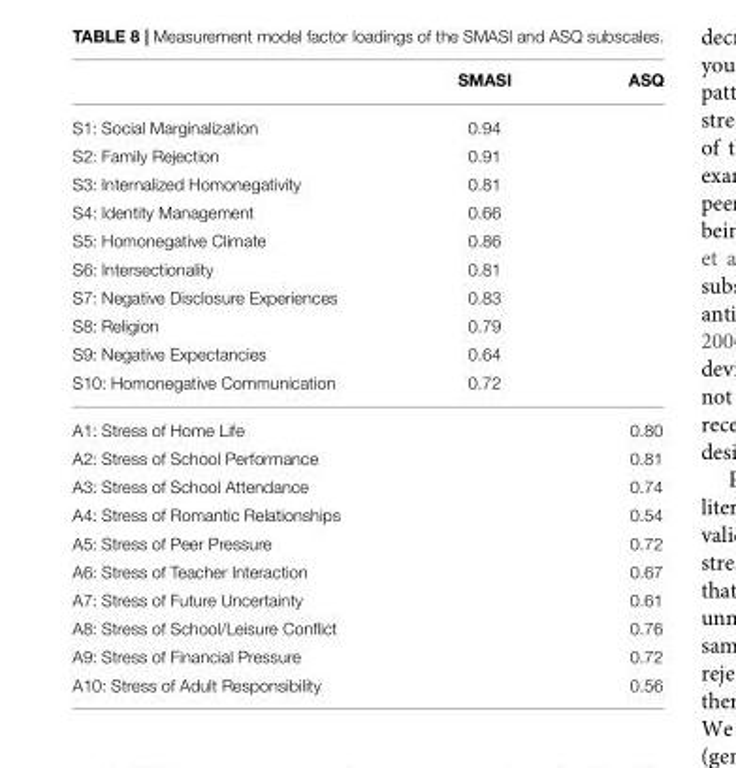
<table><thead><tr><td></td><td>SMASI</td><td>ASQ</td></tr></thead><tbody><tr><td>S1: Social Marginalization</td><td>0.94</td><td></td></tr><tr><td>S2: Family Rejection</td><td>0.91</td><td></td></tr><tr><td>S3: Internalized Homonegativity</td><td>0.81</td><td></td></tr><tr><td>S4: Identity Management</td><td>0.66</td><td></td></tr><tr><td>S5: Homonegative Climate</td><td>0.86</td><td></td></tr><tr><td>S6: Intersectionality</td><td>0.81</td><td></td></tr><tr><td>S7: Negative Disclosure Experiences</td><td>0.83</td><td></td></tr><tr><td>S8: Religion</td><td>0.79</td><td></td></tr><tr><td>S9: Negative Expectancies</td><td>0.64</td><td></td></tr><tr><td>S10: Homonegative Communication</td><td>0.72</td><td></td></tr><tr><td>A1: Stress of Home Life</td><td></td><td>0.80</td></tr><tr><td>A2: Stress of School Performance</td><td></td><td>0.81</td></tr><tr><td>A3: Stress of School Attendance</td><td></td><td>0.74</td></tr><tr><td>A4: Stress of Romantic Relationships</td><td></td><td>0.54</td></tr><tr><td>A5: Stress of Peer Pressure</td><td></td><td>0.72</td></tr><tr><td>A6: Stress of Teacher Interaction</td><td></td><td>0.67</td></tr><tr><td>A7: Stress of Future Uncertainty</td><td></td><td>0.61</td></tr><tr><td>A8: Stress of School/Leisure Conflict</td><td></td><td>0.76</td></tr><tr><td>A9: Stress of Financial Pressure</td><td></td><td>0.72</td></tr><tr><td>A10: Stress of Adult Responsibility</td><td></td><td>0.56</td></tr></tbody></table>